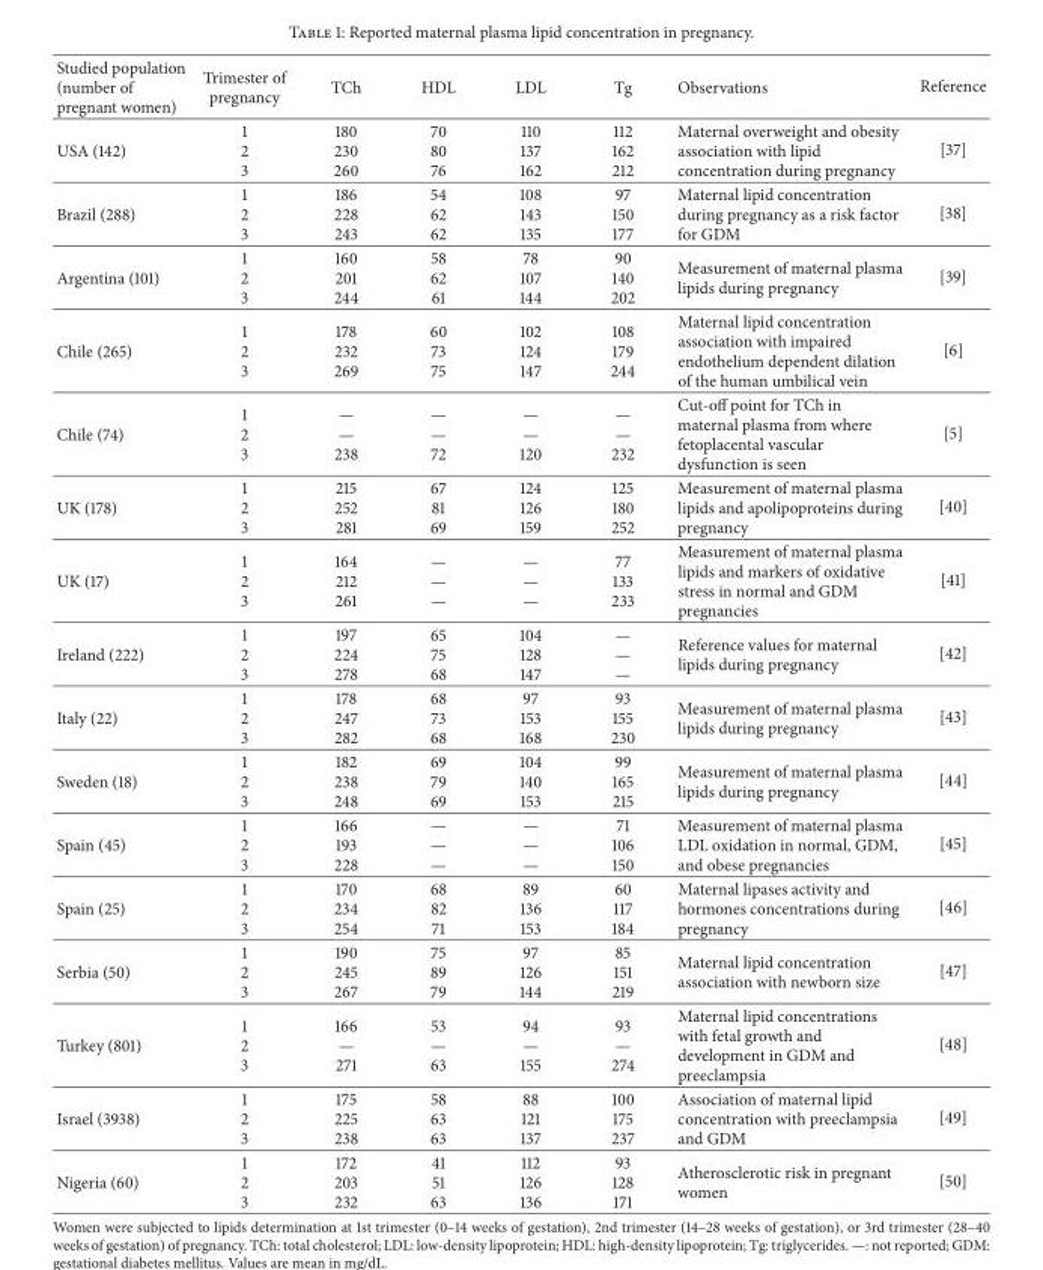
<table><thead><tr><td>Studied population (number of pregnant women)</td><td>Trimester of pregnancy</td><td>TCh</td><td>HDL</td><td>LDL</td><td>Tg</td><td>Observations</td><td>Reference</td></tr></thead><tbody><tr><td>USA (142)</td><td>1 2 3</td><td>180 230 260</td><td>70 80 76</td><td>110 137 162</td><td>112 162 212</td><td>Maternal overweight and obesity association with lipid concentration during pregnancy</td><td>[37]</td></tr><tr><td>Brazil (288)</td><td>1 2 3</td><td>186 228 243</td><td>54 62 62</td><td>108 143 135</td><td>97 150 177</td><td>Maternal lipid concentration during pregnancy as a risk factor for GDM</td><td>[38]</td></tr><tr><td>Argentina (101)</td><td>1 2 3</td><td>160 201 244</td><td>58 62 61</td><td>78 107 144</td><td>90 140 202</td><td>Measurement of maternal plasma lipids during pregnancy</td><td>[39]</td></tr><tr><td>Chile (265)</td><td>1 2 3</td><td>178 232 269</td><td>60 73 75</td><td>102 124 147</td><td>108 179 244</td><td>Maternal lipid concentration association with impaired endothelium dependent dilation of the human umbilical vein</td><td>[6]</td></tr><tr><td>Chile (74)</td><td>1 2 3</td><td>— — 238</td><td>— — 72</td><td>— — 120</td><td>— — 232</td><td>Cut-off point for TCh in maternal plasma from where fetoplacental vascular dysfunction is seen</td><td>[5]</td></tr><tr><td>UK (178)</td><td>1 2 3</td><td>215 252 281</td><td>67 81 69</td><td>124 126 159</td><td>125 180 252</td><td>Measurement of maternal plasma lipids and apolipoproteins during pregnancy</td><td>[40]</td></tr><tr><td>UK (17)</td><td>1 2 3</td><td>164 212 261</td><td>— — —</td><td>— — —</td><td>77 133 233</td><td>Measurement of maternal plasma lipids and markers of oxidative stress in normal and GDM pregnancies</td><td>[41]</td></tr><tr><td>Ireland (222)</td><td>1 2 3</td><td>197 224 278</td><td>65 75 68</td><td>104 128 147</td><td>— — —</td><td>Reference values for maternal lipids during pregnancy</td><td>[42]</td></tr><tr><td>Italy (22)</td><td>1 2 3</td><td>178 247 282</td><td>68 73 68</td><td>97 153 168</td><td>93 155 230</td><td>Measurement of maternal plasma lipids during pregnancy</td><td>[43]</td></tr><tr><td>Sweden (18)</td><td>1 2 3</td><td>182 238 248</td><td>69 79 69</td><td>104 140 153</td><td>99 165 215</td><td>Measurement of maternal plasma lipids during pregnancy</td><td>[44]</td></tr><tr><td>Spain (45)</td><td>1 2 3</td><td>166 193 228</td><td>— — —</td><td>— — —</td><td>71 106 150</td><td>Measurement of maternal plasma LDL oxidation in normal, GDM, and obese pregnancies</td><td>[45]</td></tr><tr><td>Spain (25)</td><td>1 2 3</td><td>170 234 254</td><td>68 82 71</td><td>89 136 153</td><td>60 117 184</td><td>Maternal lipases activity and hormones concentrations during pregnancy</td><td>[46]</td></tr><tr><td>Serbia (50)</td><td>1 2 3</td><td>190 245 267</td><td>75 89 79</td><td>97 126 144</td><td>85 151 219</td><td>Maternal lipid concentration association with newborn size</td><td>[47]</td></tr><tr><td>Turkey (801)</td><td>1 2 3</td><td>166 — 271</td><td>53 — 63</td><td>94 — 155</td><td>93 — 274</td><td>Maternal lipid concentrations with fetal growth and development in GDM and preeclampsia</td><td>[48]</td></tr><tr><td>Israel (3938)</td><td>1 2 3</td><td>175 225 238</td><td>58 63 63</td><td>88 121 137</td><td>100 175 237</td><td>Association of maternal lipid concentration with preeclampsia and GDM</td><td>[49]</td></tr><tr><td>Nigeria (60)</td><td>1 2 3</td><td>172 203 232</td><td>41 51 63</td><td>112 126 136</td><td>93 128 171</td><td>Atherosclerotic risk in pregnant women</td><td>[50]</td></tr></tbody></table>